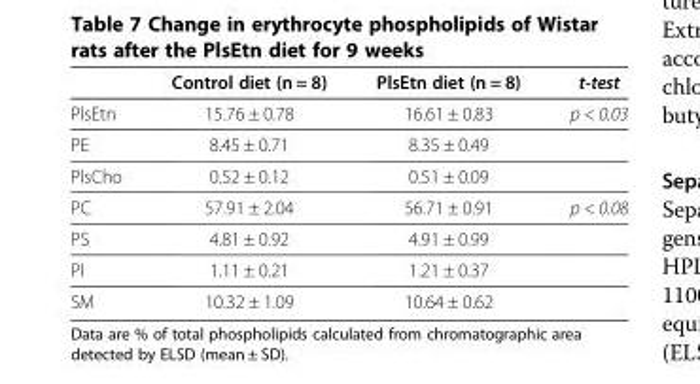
<table><thead><tr><td></td><td>Control diet (n = 8)</td><td>PlsEtn diet (n = 8)</td><td>t-test</td></tr></thead><tbody><tr><td>PlsEtn</td><td>15.76 ± 0.78</td><td>16.61 ± 0.83</td><td>p &lt; 0.03</td></tr><tr><td>PE</td><td>8.45 ± 0.71</td><td>8.35 ± 0.49</td><td></td></tr><tr><td>PlsCho</td><td>0.52 ± 0.12</td><td>0.51 ± 0.09</td><td></td></tr><tr><td>PC</td><td>57.91 ± 2.04</td><td>56.71 ± 0.91</td><td>p &lt; 0.08</td></tr><tr><td>PS</td><td>4.81 ± 0.92</td><td>4.91 ± 0.99</td><td></td></tr><tr><td>PI</td><td>1.11 ± 0.21</td><td>1.21 ± 0.37</td><td></td></tr><tr><td>SM</td><td>10.32 ± 1.09</td><td>10.64 ± 0.62</td><td></td></tr></tbody></table>